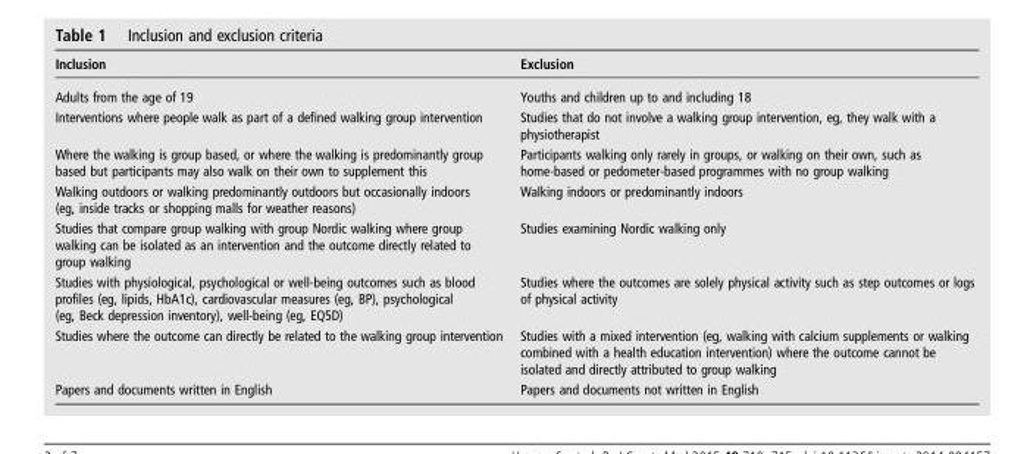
<table><thead><tr><td>Inclusion</td><td>Exclusion</td></tr></thead><tbody><tr><td>Adults from the age of 19</td><td>Youths and children up to and including 18</td></tr><tr><td>Interventions where people walk as part of a defined walking group intervention</td><td>Studies that do not involve a walking group intervention, eg, they walk with a physiotherapist</td></tr><tr><td>Where the walking is group based, or where the walking is predominantly group based but participants may also walk on their own to supplement this</td><td>Participants walking only rarely in groups, or walking on their own, such as home-based or pedometer-based programmes with no group walking</td></tr><tr><td>Walking outdoors or walking predominantly outdoors but occasionally indoors (eg, inside tracks or shopping malls for weather reasons)</td><td>Walking indoors or predominantly indoors</td></tr><tr><td>Studies that compare group walking with group Nordic walking where group walking can be isolated as an intervention and the outcome directly related to group walking</td><td>Studies examining Nordic walking only</td></tr><tr><td>Studies with physiological, psychological or well-being outcomes such as blood profiles (eg, lipids, HbA1c), cardiovascular measures (eg, BP), psychological (eg, Beck depression inventory), well-being (eg, EQ5D)</td><td>Studies where the outcomes are solely physical activity such as step outcomes or logs of physical activity</td></tr><tr><td>Studies where the outcome can directly be related to the walking group intervention</td><td>Studies with a mixed intervention (eg, walking with calcium supplements or walking combined with a health education intervention) where the outcome cannot be isolated and directly attributed to group walking</td></tr><tr><td>Papers and documents written in English</td><td>Papers and documents not written in English</td></tr></tbody></table>